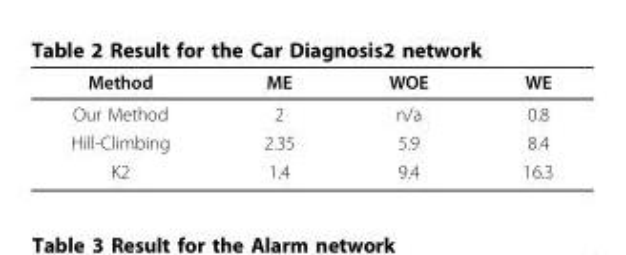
<table><thead><tr><td>Method</td><td>ME</td><td>WOE</td><td>WE</td></tr></thead><tbody><tr><td>Our Method</td><td>2</td><td>n/a</td><td>0.8</td></tr><tr><td>Hill-Climbing</td><td>2.35</td><td>5.9</td><td>8.4</td></tr><tr><td>K2</td><td>1.4</td><td>9.4</td><td>16.3</td></tr></tbody></table>